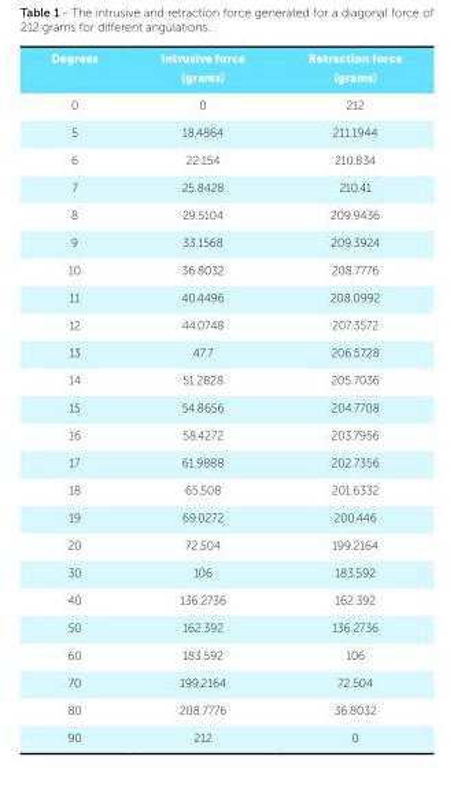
<table><tbody><tr><td>Degrees</td><td>Intrusive force (grams)</td><td>Retraction force (grams)</td></tr><tr><td>0</td><td>0</td><td>212</td></tr><tr><td>5</td><td>18.4864</td><td>211.1944</td></tr><tr><td>6</td><td>22.154</td><td>210.834</td></tr><tr><td>7</td><td>25.8428</td><td>210.41</td></tr><tr><td>8</td><td>29.5104</td><td>209.9436</td></tr><tr><td>9</td><td>33.1568</td><td>209.3924</td></tr><tr><td>10</td><td>36.8032</td><td>208.7776</td></tr><tr><td>11</td><td>40.4496</td><td>208.0992</td></tr><tr><td>12</td><td>44.0748</td><td>207.3572</td></tr><tr><td>13</td><td>47.7</td><td>206.5728</td></tr><tr><td>14</td><td>51.2828</td><td>205.7036</td></tr><tr><td>15</td><td>54.8656</td><td>204.7708</td></tr><tr><td>16</td><td>58.4272</td><td>203.7956</td></tr><tr><td>17</td><td>61.9888</td><td>202.7356</td></tr><tr><td>18</td><td>65.508</td><td>201.6332</td></tr><tr><td>19</td><td>69.0272</td><td>200.446</td></tr><tr><td>20</td><td>72.504</td><td>199.2164</td></tr><tr><td>30</td><td>106</td><td>183.592</td></tr><tr><td>40</td><td>136.2736</td><td>162.392</td></tr><tr><td>50</td><td>162.392</td><td>136.2736</td></tr><tr><td>60</td><td>183.592</td><td>106</td></tr><tr><td>70</td><td>199.2164</td><td>72.504</td></tr><tr><td>80</td><td>208.7776</td><td>36.8032</td></tr><tr><td>90</td><td>212</td><td>0</td></tr></tbody></table>